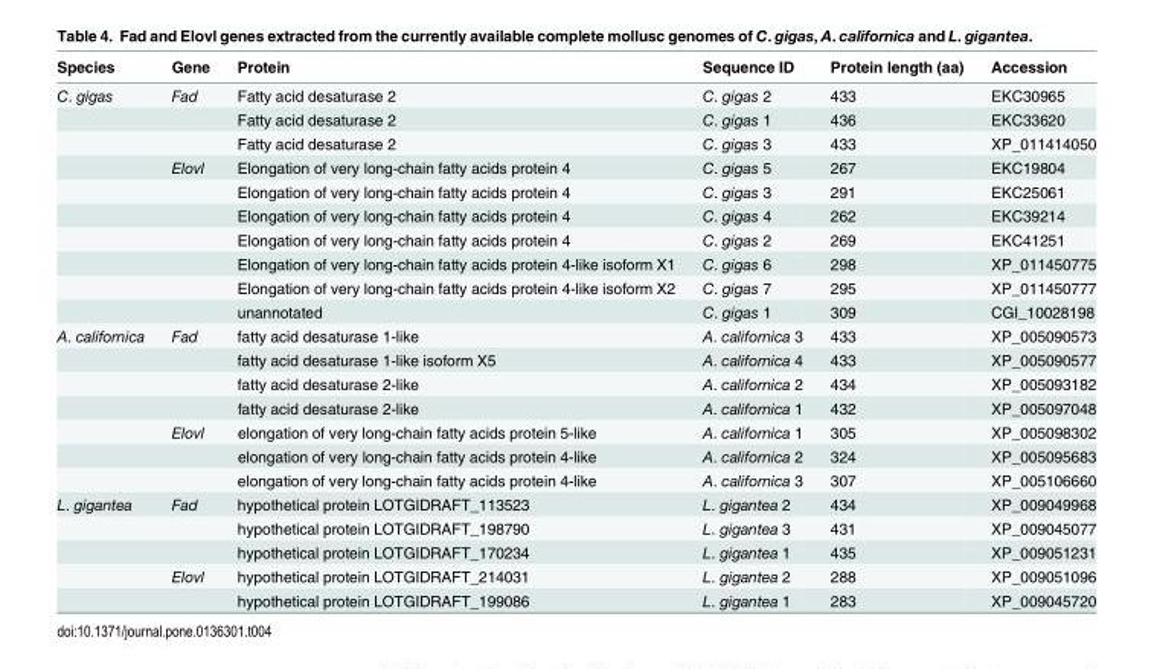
<table><thead><tr><td>Species</td><td>Gene</td><td>Protein</td><td>Sequence ID</td><td>Protein length (aa)</td><td>Accession</td></tr></thead><tbody><tr><td rowspan="10">C. gigas</td><td>Fad</td><td>Fatty acid desaturase 2</td><td>C. gigas 2</td><td>433</td><td>EKC30965</td></tr><tr><td></td><td>Fatty acid desaturase 2</td><td>C. gigas 1</td><td>436</td><td>EKC33620</td></tr><tr><td></td><td>Fatty acid desaturase 2</td><td>C. gigas 3</td><td>433</td><td>XP_011414050</td></tr><tr><td>Elovl</td><td>Elongation of very long-chain fatty acids protein 4</td><td>C. gigas 5</td><td>267</td><td>EKC19804</td></tr><tr><td></td><td>Elongation of very long-chain fatty acids protein 4</td><td>C. gigas 3</td><td>291</td><td>EKC25061</td></tr><tr><td></td><td>Elongation of very long-chain fatty acids protein 4</td><td>C. gigas 4</td><td>262</td><td>EKC39214</td></tr><tr><td></td><td>Elongation of very long-chain fatty acids protein 4</td><td>C. gigas 2</td><td>269</td><td>EKC41251</td></tr><tr><td></td><td>Elongation of very long-chain fatty acids protein 4-like isoform X1</td><td>C. gigas 6</td><td>298</td><td>XP_011450775</td></tr><tr><td></td><td>Elongation of very long-chain fatty acids protein 4-like isoform X2</td><td>C. gigas 7</td><td>295</td><td>XP_011450777</td></tr><tr><td></td><td>unannotated</td><td>C. gigas 1</td><td>309</td><td>CGI_10028198</td></tr><tr><td rowspan="7">A. californica</td><td>Fad</td><td>fatty acid desaturase 1-like</td><td>A. californica 3</td><td>433</td><td>XP_005090573</td></tr><tr><td></td><td>fatty acid desaturase 1-like isoform X5</td><td>A. californica 4</td><td>433</td><td>XP_005090577</td></tr><tr><td></td><td>fatty acid desaturase 2-like</td><td>A. californica 2</td><td>434</td><td>XP_005093182</td></tr><tr><td></td><td>fatty acid desaturase 2-like</td><td>A. californica 1</td><td>432</td><td>XP_005097048</td></tr><tr><td>Elovl</td><td>elongation of very long-chain fatty acids protein 5-like</td><td>A. californica 1</td><td>305</td><td>XP_005098302</td></tr><tr><td></td><td>elongation of very long-chain fatty acids protein 4-like</td><td>A. californica 2</td><td>324</td><td>XP_005095683</td></tr><tr><td></td><td>elongation of very long-chain fatty acids protein 4-like</td><td>A. californica 3</td><td>307</td><td>XP_005106660</td></tr><tr><td rowspan="5">L. gigantea</td><td>Fad</td><td>hypothetical protein LOTGIDRAFT_113523</td><td>L. gigantea 2</td><td>434</td><td>XP_009049968</td></tr><tr><td></td><td>hypothetical protein LOTGIDRAFT_198790</td><td>L. gigantea 3</td><td>431</td><td>XP_009045077</td></tr><tr><td></td><td>hypothetical protein LOTGIDRAFT_170234</td><td>L. gigantea 1</td><td>435</td><td>XP_009051231</td></tr><tr><td>Elovl</td><td>hypothetical protein LOTGIDRAFT_214031</td><td>L. gigantea 2</td><td>288</td><td>XP_009051096</td></tr><tr><td></td><td>hypothetical protein LOTGIDRAFT_199086</td><td>L. gigantea 1</td><td>283</td><td>XP_009045720</td></tr></tbody></table>